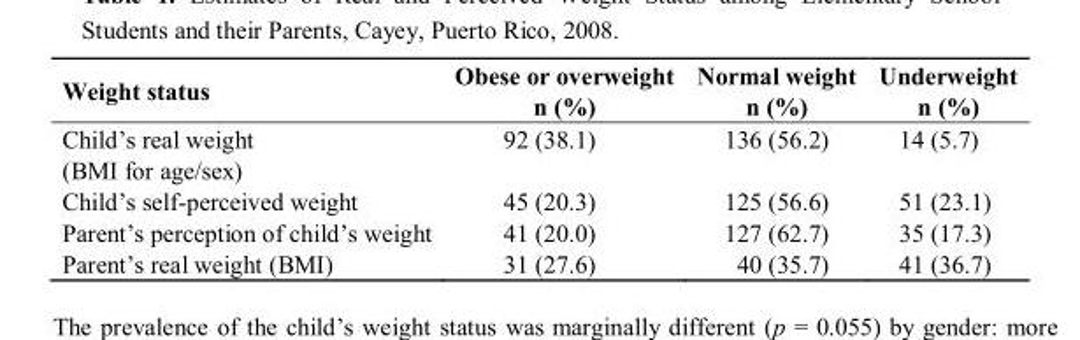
<table><thead><tr><td>Weight status</td><td>Obese or overweight n (%)</td><td>Normal weight n (%)</td><td>Underweight n (%)</td></tr></thead><tbody><tr><td>Child’s real weight (BMI for age/sex)</td><td>92 (38.1)</td><td>136 (56.2)</td><td>14 (5.7)</td></tr><tr><td>Child’s self-perceived weight</td><td>45 (20.3)</td><td>125 (56.6)</td><td>51 (23.1)</td></tr><tr><td>Parent’s perception of child’s weight</td><td>41 (20.0)</td><td>127 (62.7)</td><td>35 (17.3)</td></tr><tr><td>Parent’s real weight (BMI)</td><td>31 (27.6)</td><td>40 (35.7)</td><td>41 (36.7)</td></tr></tbody></table>